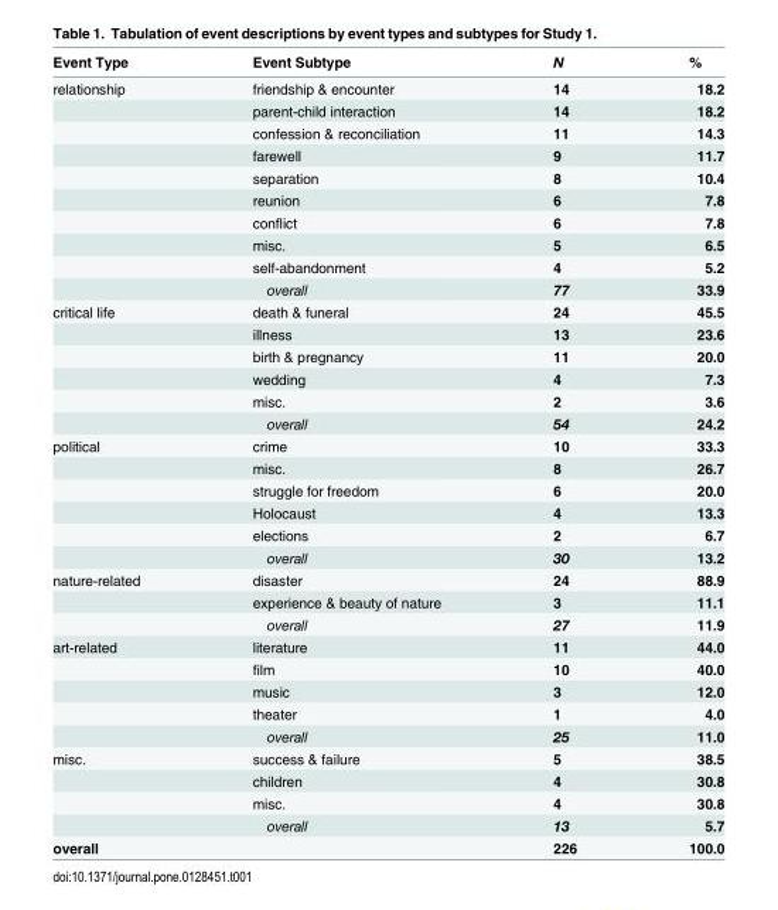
<table><thead><tr><td>Event Type</td><td>Event Subtype</td><td>N</td><td>%</td></tr></thead><tbody><tr><td rowspan="10">relationship</td><td>friendship &amp; encounter</td><td>14</td><td>18.2</td></tr><tr><td>parent-child interaction</td><td>14</td><td>18.2</td></tr><tr><td>confession &amp; reconciliation</td><td>11</td><td>14.3</td></tr><tr><td>farewell</td><td>9</td><td>11.7</td></tr><tr><td>separation</td><td>8</td><td>10.4</td></tr><tr><td>reunion</td><td>6</td><td>7.8</td></tr><tr><td>conflict</td><td>6</td><td>7.8</td></tr><tr><td>misc.</td><td>5</td><td>6.5</td></tr><tr><td>self-abandonment</td><td>4</td><td>5.2</td></tr><tr><td>overall</td><td>77</td><td>33.9</td></tr><tr><td rowspan="6">critical life</td><td>death &amp; funeral</td><td>24</td><td>45.5</td></tr><tr><td>illness</td><td>13</td><td>23.6</td></tr><tr><td>birth &amp; pregnancy</td><td>11</td><td>20.0</td></tr><tr><td>wedding</td><td>4</td><td>7.3</td></tr><tr><td>misc.</td><td>2</td><td>3.6</td></tr><tr><td>overall</td><td>54</td><td>24.2</td></tr><tr><td rowspan="6">political</td><td>crime</td><td>10</td><td>33.3</td></tr><tr><td>misc.</td><td>8</td><td>26.7</td></tr><tr><td>struggle for freedom</td><td>6</td><td>20.0</td></tr><tr><td>Holocaust</td><td>4</td><td>13.3</td></tr><tr><td>elections</td><td>2</td><td>6.7</td></tr><tr><td>overall</td><td>30</td><td>13.2</td></tr><tr><td rowspan="3">nature-related</td><td>disaster</td><td>24</td><td>88.9</td></tr><tr><td>experience &amp; beauty of nature</td><td>3</td><td>11.1</td></tr><tr><td>overall</td><td>27</td><td>11.9</td></tr><tr><td rowspan="5">art-related</td><td>literature</td><td>11</td><td>44.0</td></tr><tr><td>film</td><td>10</td><td>40.0</td></tr><tr><td>music</td><td>3</td><td>12.0</td></tr><tr><td>theater</td><td>1</td><td>4.0</td></tr><tr><td>overall</td><td>25</td><td>11.0</td></tr><tr><td rowspan="4">misc.</td><td>success &amp; failure</td><td>5</td><td>38.5</td></tr><tr><td>children</td><td>4</td><td>30.8</td></tr><tr><td>misc.</td><td>4</td><td>30.8</td></tr><tr><td>overall</td><td>13</td><td>5.7</td></tr><tr><td>overall</td><td></td><td>226</td><td>100.0</td></tr></tbody></table>